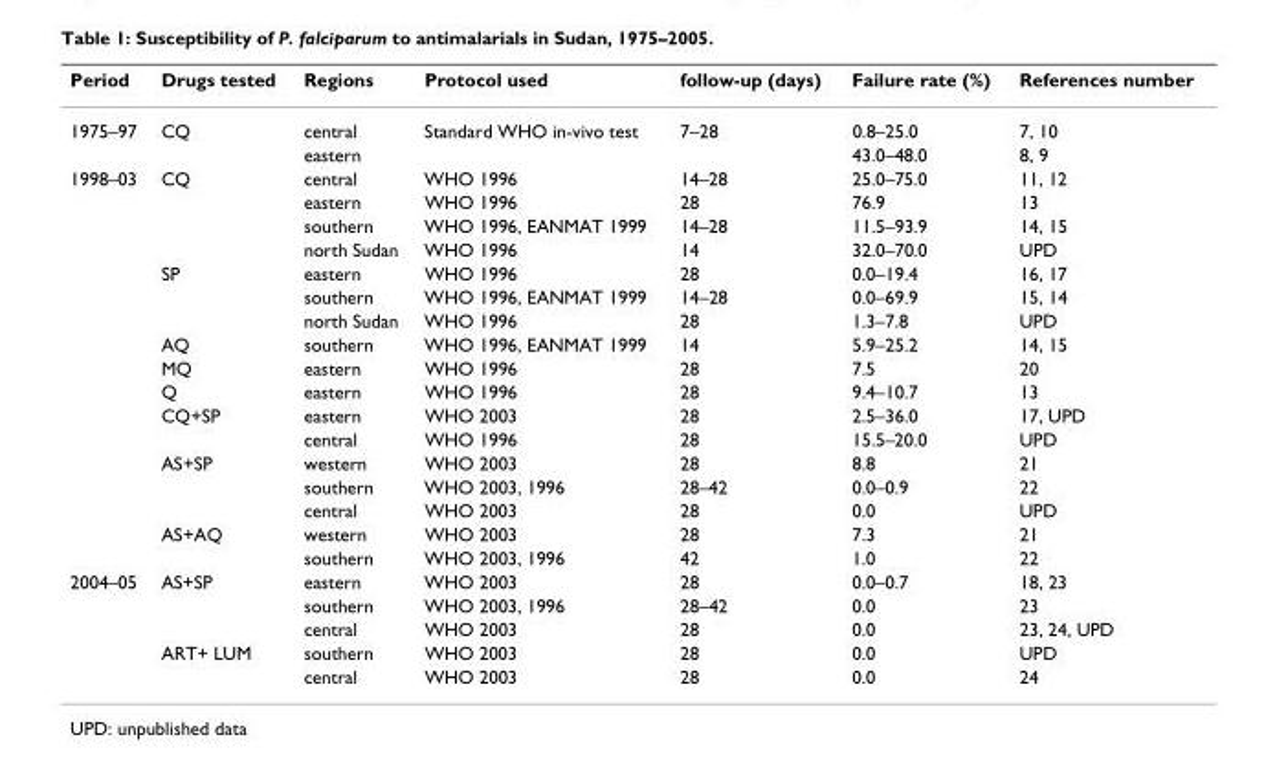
<table><thead><tr><td>Period</td><td>Drugs tested</td><td>Regions</td><td>Protocol used</td><td>follow-up (days)</td><td>Failure rate (%)</td><td>References number</td></tr></thead><tbody><tr><td rowspan="2">1975–97</td><td>CQ</td><td>central</td><td>Standard WHO in-vivo test</td><td>7–28</td><td>0.8–25.0</td><td>7, 10</td></tr><tr><td></td><td>eastern</td><td></td><td></td><td>43.0–48.0</td><td>8, 9</td></tr><tr><td rowspan="17">1998–03</td><td>CQ</td><td>central</td><td>WHO 1996</td><td>14–28</td><td>25.0–75.0</td><td>11, 12</td></tr><tr><td></td><td>eastern</td><td>WHO 1996</td><td>28</td><td>76.9</td><td>13</td></tr><tr><td></td><td>southern</td><td>WHO 1996, EANMAT 1999</td><td>14–28</td><td>11.5–93.9</td><td>14, 15</td></tr><tr><td></td><td>north Sudan</td><td>WHO 1996</td><td>14</td><td>32.0–70.0</td><td>UPD</td></tr><tr><td>SP</td><td>eastern</td><td>WHO 1996</td><td>28</td><td>0.0–19.4</td><td>16, 17</td></tr><tr><td></td><td>southern</td><td>WHO 1996, EANMAT 1999</td><td>14–28</td><td>0.0–69.9</td><td>15, 14</td></tr><tr><td></td><td>north Sudan</td><td>WHO 1996</td><td>28</td><td>1.3–7.8</td><td>UPD</td></tr><tr><td>AQ</td><td>southern</td><td>WHO 1996, EANMAT 1999</td><td>14</td><td>5.9–25.2</td><td>14, 15</td></tr><tr><td>MQ</td><td>eastern</td><td>WHO 1996</td><td>28</td><td>7.5</td><td>20</td></tr><tr><td>Q</td><td>eastern</td><td>WHO 1996</td><td>28</td><td>9.4–10.7</td><td>13</td></tr><tr><td>CQ+SP</td><td>eastern</td><td>WHO 2003</td><td>28</td><td>2.5–36.0</td><td>17, UPD</td></tr><tr><td></td><td>central</td><td>WHO 1996</td><td>28</td><td>15.5–20.0</td><td>UPD</td></tr><tr><td>AS+SP</td><td>western</td><td>WHO 2003</td><td>28</td><td>8.8</td><td>21</td></tr><tr><td></td><td>southern</td><td>WHO 2003, 1996</td><td>28–42</td><td>0.0–0.9</td><td>22</td></tr><tr><td></td><td>central</td><td>WHO 2003</td><td>28</td><td>0.0</td><td>UPD</td></tr><tr><td>AS+AQ</td><td>western</td><td>WHO 2003</td><td>28</td><td>7.3</td><td>21</td></tr><tr><td></td><td>southern</td><td>WHO 2003, 1996</td><td>42</td><td>1.0</td><td>22</td></tr><tr><td rowspan="5">2004–05</td><td>AS+SP</td><td>eastern</td><td>WHO 2003</td><td>28</td><td>0.0–0.7</td><td>18, 23</td></tr><tr><td></td><td>southern</td><td>WHO 2003, 1996</td><td>28–42</td><td>0.0</td><td>23</td></tr><tr><td></td><td>central</td><td>WHO 2003</td><td>28</td><td>0.0</td><td>23, 24, UPD</td></tr><tr><td>ART+ LUM</td><td>southern</td><td>WHO 2003</td><td>28</td><td>0.0</td><td>UPD</td></tr><tr><td></td><td>central</td><td>WHO 2003</td><td>28</td><td>0.0</td><td>24</td></tr></tbody></table>